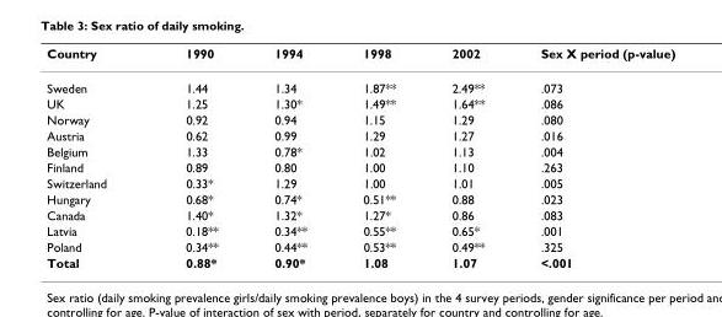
<table><thead><tr><td>Country</td><td>1990</td><td>1994</td><td>1998</td><td>2002</td><td>Sex X period (p-value)</td></tr></thead><tbody><tr><td>Sweden</td><td>1.44</td><td>1.34</td><td>1.87**</td><td>2.49**</td><td>.073</td></tr><tr><td>UK</td><td>1.25</td><td>1.30*</td><td>1.49**</td><td>1.64**</td><td>.086</td></tr><tr><td>Norway</td><td>0.92</td><td>0.94</td><td>1.15</td><td>1.29</td><td>.080</td></tr><tr><td>Austria</td><td>0.62</td><td>0.99</td><td>1.29</td><td>1.27</td><td>.016</td></tr><tr><td>Belgium</td><td>1.33</td><td>0.78*</td><td>1.02</td><td>1.13</td><td>.004</td></tr><tr><td>Finland</td><td>0.89</td><td>0.80</td><td>1.00</td><td>1.10</td><td>.263</td></tr><tr><td>Switzerland</td><td>0.33*</td><td>1.29</td><td>1.00</td><td>1.01</td><td>.005</td></tr><tr><td>Hungary</td><td>0.68*</td><td>0.74*</td><td>0.51**</td><td>0.88</td><td>.023</td></tr><tr><td>Canada</td><td>1.40*</td><td>1.32*</td><td>1.27*</td><td>0.86</td><td>.083</td></tr><tr><td>Latvia</td><td>0.18**</td><td>0.34**</td><td>0.55**</td><td>0.65*</td><td>.001</td></tr><tr><td>Poland</td><td>0.34**</td><td>0.44**</td><td>0.53**</td><td>0.49**</td><td>.325</td></tr><tr><td>Total</td><td>0.88*</td><td>0.90*</td><td>1.08</td><td>1.07</td><td>&lt;.001</td></tr></tbody></table>